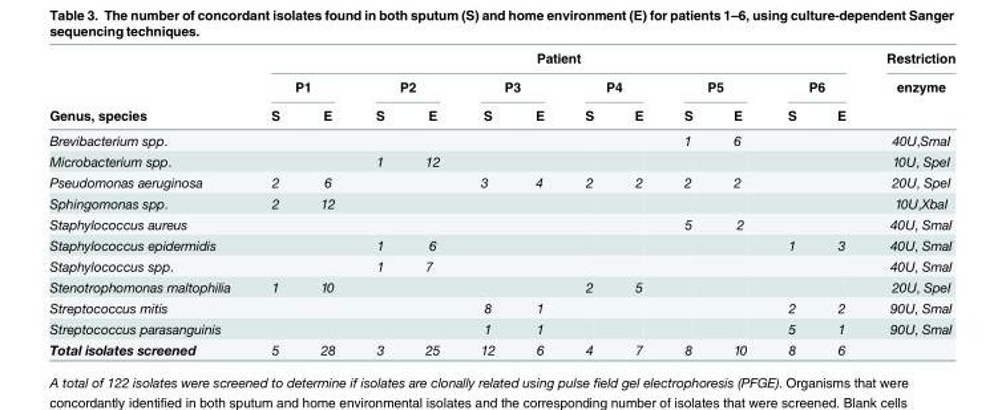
<table><thead><tr><td rowspan="3">Genus, species</td><td colspan="12">Patient</td><td rowspan="3">Restriction enzyme</td></tr><tr><td colspan="2">P1</td><td colspan="2">P2</td><td colspan="2">P3</td><td colspan="2">P4</td><td colspan="2">P5</td><td colspan="2">P6</td></tr><tr><td>S</td><td>E</td><td>S</td><td>E</td><td>S</td><td>E</td><td>S</td><td>E</td><td>S</td><td>E</td><td>S</td><td>E</td></tr></thead><tbody><tr><td>Brevibacterium spp.</td><td></td><td></td><td></td><td></td><td></td><td></td><td></td><td></td><td>1</td><td>6</td><td></td><td></td><td>40U,SmaI</td></tr><tr><td>Microbacterium spp.</td><td></td><td></td><td>1</td><td>12</td><td></td><td></td><td></td><td></td><td></td><td></td><td></td><td></td><td>10U, SpeI</td></tr><tr><td>Pseudomonas aeruginosa</td><td>2</td><td>6</td><td></td><td></td><td>3</td><td>4</td><td>2</td><td>2</td><td>2</td><td>2</td><td></td><td></td><td>20U, SpeI</td></tr><tr><td>Sphingomonas spp.</td><td>2</td><td>12</td><td></td><td></td><td></td><td></td><td></td><td></td><td></td><td></td><td></td><td></td><td>10U,XbaI</td></tr><tr><td>Staphylococcus aureus</td><td></td><td></td><td></td><td></td><td></td><td></td><td></td><td></td><td>5</td><td>2</td><td></td><td></td><td>40U, SmaI</td></tr><tr><td>Staphylococcus epidermidis</td><td></td><td></td><td>1</td><td>6</td><td></td><td></td><td></td><td></td><td></td><td></td><td>1</td><td>3</td><td>40U, SmaI</td></tr><tr><td>Staphylococcus spp.</td><td></td><td></td><td>1</td><td>7</td><td></td><td></td><td></td><td></td><td></td><td></td><td></td><td></td><td>40U, SmaI</td></tr><tr><td>Stenotrophomonas maltophilia</td><td>1</td><td>10</td><td></td><td></td><td></td><td></td><td>2</td><td>5</td><td></td><td></td><td></td><td></td><td>20U, SpeI</td></tr><tr><td>Streptococcus mitis</td><td></td><td></td><td></td><td></td><td>8</td><td>1</td><td></td><td></td><td></td><td></td><td>2</td><td>2</td><td>90U, SmaI</td></tr><tr><td>Streptococcus parasanguinis</td><td></td><td></td><td></td><td></td><td>1</td><td>1</td><td></td><td></td><td></td><td></td><td>5</td><td>1</td><td>90U, SmaI</td></tr><tr><td>Total isolates screened</td><td>5</td><td>28</td><td>3</td><td>25</td><td>12</td><td>6</td><td>4</td><td>7</td><td>8</td><td>10</td><td>8</td><td>6</td><td></td></tr></tbody></table>